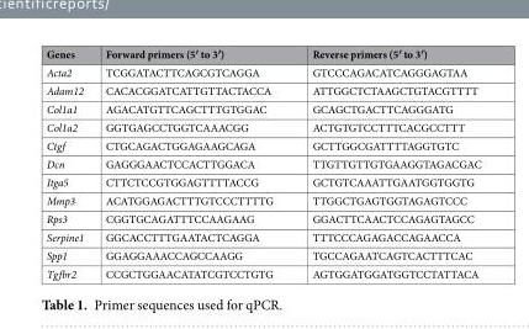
<table><thead><tr><td>Genes</td><td>Forward primers (5′ to 3′)</td><td>Reverse primers (5′ to 3′)</td></tr></thead><tbody><tr><td>Acta2</td><td>TCGGATACTTCAGCGTCAGGA</td><td>GTCCCAGACATCAGGGAGTAA</td></tr><tr><td>Adam12</td><td>CACACGGATCATTGTTACTACCA</td><td>ATTGGCTCTAAGCTGTACGTTTT</td></tr><tr><td>Col1a1</td><td>AGACATGTTCAGCTTTGTGGAC</td><td>GCAGCTGACTTCAGGGATG</td></tr><tr><td>Col1a2</td><td>GGTGAGCCTGGTCAAACGG</td><td>ACTGTGTCCTTTCACGCCTTT</td></tr><tr><td>Ctgf</td><td>CTGCAGACTGGAGAAGCAGA</td><td>GCTTGGCGATTTTAGGTGTC</td></tr><tr><td>Dcn</td><td>GAGGGAACTCCACTTGGACA</td><td>TTGTTGTTGTGAAGGTAGACGAC</td></tr><tr><td>Itga5</td><td>CTTCTCCGTGGAGTTTTACCG</td><td>GCTGTCAAATTGAATGGTGGTG</td></tr><tr><td>Mmp3</td><td>ACATGGAGACTTTGTCCCTTTTG</td><td>TTGGCTGAGTGGTAGAGTCCC</td></tr><tr><td>Rps3</td><td>CGGTGCAGATTTCCAAGAAG</td><td>GGACTTCAACTCCAGAGTAGCC</td></tr><tr><td>Serpine1</td><td>GGCACCTTTGAATACTCAGGA</td><td>TTTCCCAGAGACCAGAACCA</td></tr><tr><td>Spp1</td><td>GGAGGAAACCAGCCAAGG</td><td>TGCCAGAATCAGTCACTTTCAC</td></tr><tr><td>Tgfbr2</td><td>CCGCTGGAACATATCGTCCTGTG</td><td>AGTGGATGGATGGTCCTATTACA</td></tr></tbody></table>